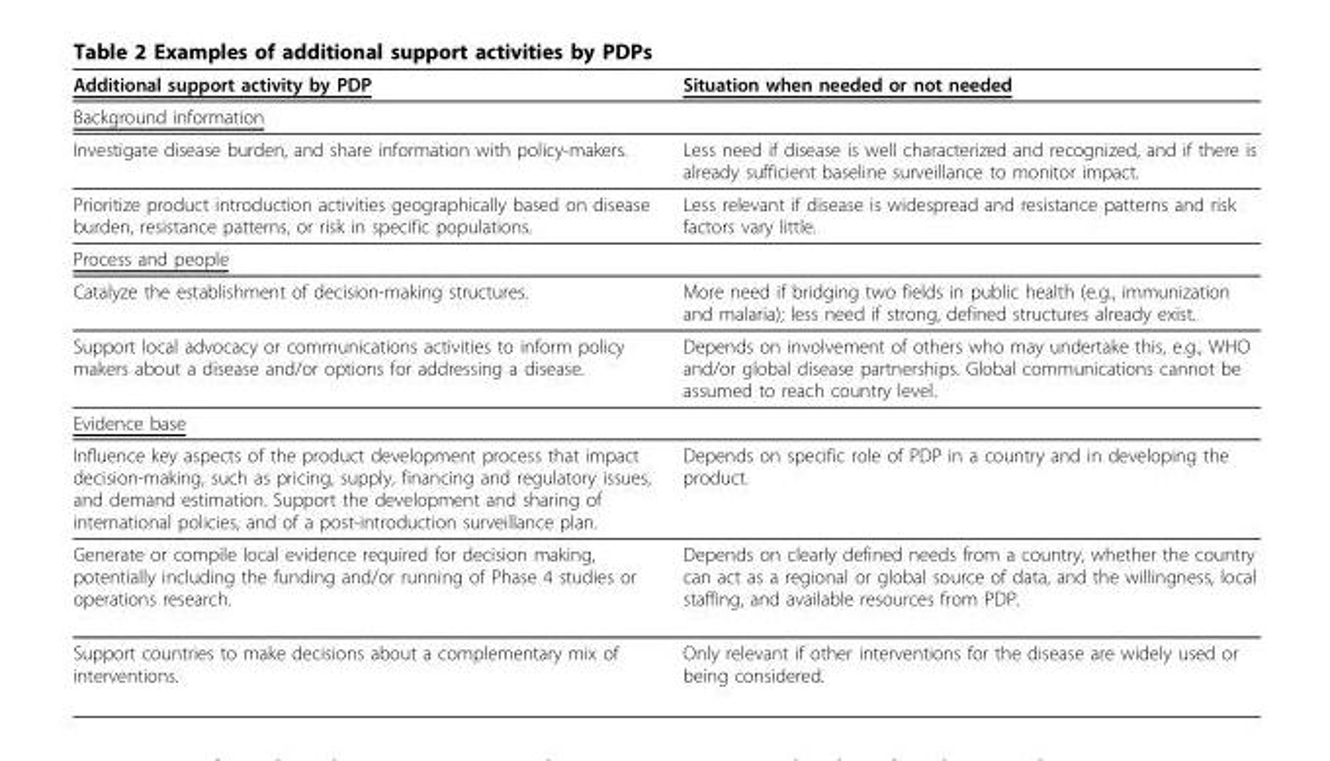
<table><thead><tr><td>Additional support activity by PDP</td><td>Situation when needed or not needed</td></tr></thead><tbody><tr><td colspan="2">Background information</td></tr><tr><td>Investigate disease burden, and share information with policy-makers.</td><td>Less need if disease is well characterized and recognized, and if there is already sufficient baseline surveillance to monitor impact.</td></tr><tr><td>Prioritize product introduction activities geographically based on disease burden, resistance patterns, or risk in specific populations.</td><td>Less relevant if disease is widespread and resistance patterns and risk factors vary little.</td></tr><tr><td colspan="2">Process and people</td></tr><tr><td>Catalyze the establishment of decision-making structures.</td><td>More need if bridging two fields in public health (e.g., immunization and malaria); less need if strong, defined structures already exist.</td></tr><tr><td>Support local advocacy or communications activities to inform policy makers about a disease and/or options for addressing a disease.</td><td>Depends on involvement of others who may undertake this, e.g., WHO and/or global disease partnerships. Global communications cannot be assumed to reach country level.</td></tr><tr><td colspan="2">Evidence base</td></tr><tr><td>Influence key aspects of the product development process that impact decision-making, such as pricing, supply, financing and regulatory issues, and demand estimation. Support the development and sharing of international policies, and of a post-introduction surveillance plan.</td><td>Depends on specific role of PDP in a country and in developing the product.</td></tr><tr><td>Generate or compile local evidence required for decision making, potentially including the funding and/or running of Phase 4 studies or operations research.</td><td>Depends on clearly defined needs from a country, whether the country can act as a regional or global source of data, and the willingness, local staffing, and available resources from PDP.</td></tr><tr><td>Support countries to make decisions about a complementary mix of interventions.</td><td>Only relevant if other interventions for the disease are widely used or being considered.</td></tr></tbody></table>